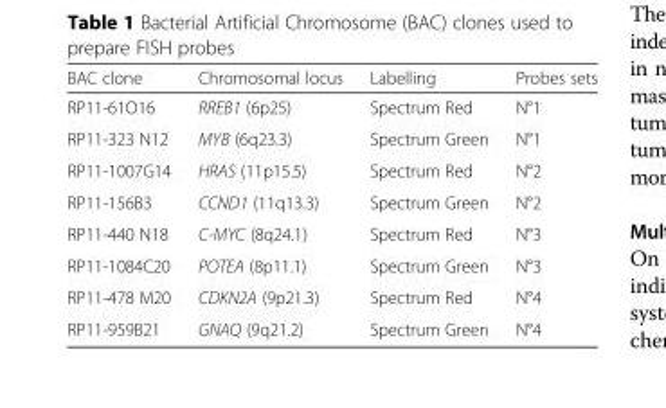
<table><thead><tr><td>BAC clone</td><td>Chromosomal locus</td><td>Labelling</td><td>Probes sets</td></tr></thead><tbody><tr><td>RP11-61O16</td><td>RREB1 (6p25)</td><td>Spectrum Red</td><td>N°1</td></tr><tr><td>RP11-323 N12</td><td>MYB (6q23.3)</td><td>Spectrum Green</td><td>N°1</td></tr><tr><td>RP11-1007G14</td><td>HRAS (11p15.5)</td><td>Spectrum Red</td><td>N°2</td></tr><tr><td>RP11-156B3</td><td>CCND1 (11q13.3)</td><td>Spectrum Green</td><td>N°2</td></tr><tr><td>RP11-440 N18</td><td>C-MYC (8q24.1)</td><td>Spectrum Red</td><td>N°3</td></tr><tr><td>RP11-1084C20</td><td>POTEA (8p11.1)</td><td>Spectrum Green</td><td>N°3</td></tr><tr><td>RP11-478 M20</td><td>CDKN2A (9p21.3)</td><td>Spectrum Red</td><td>N°4</td></tr><tr><td>RP11-959B21</td><td>GNAQ (9q21.2)</td><td>Spectrum Green</td><td>N°4</td></tr></tbody></table>